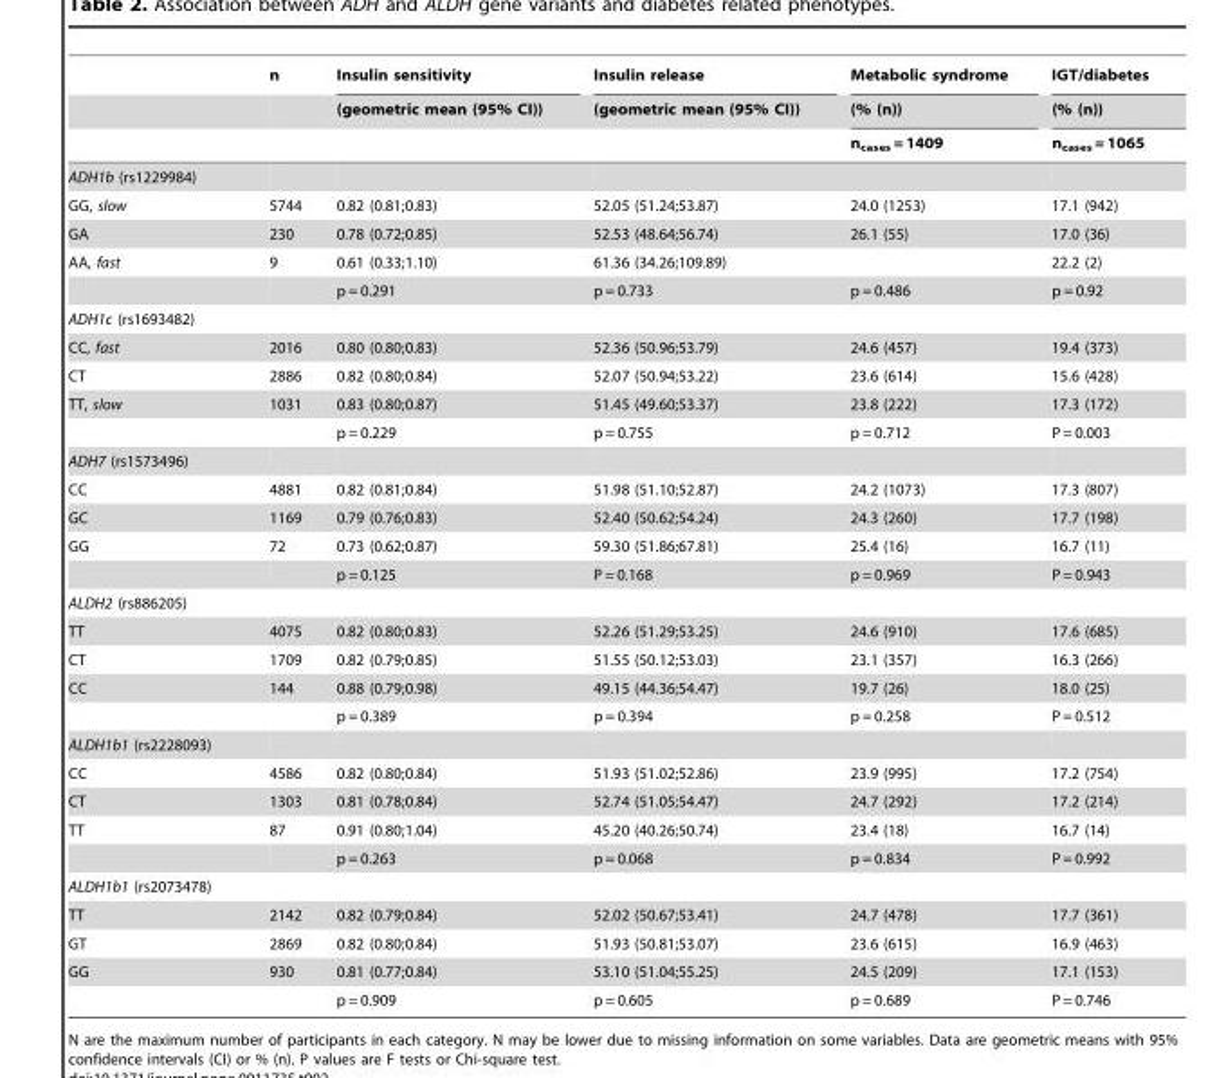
<table><thead><tr><td rowspan="3"></td><td rowspan="3">n</td><td rowspan="3">Insulin sensitivity (geometric mean (95% CI))</td><td rowspan="3">Insulin release (geometric mean (95% CI))</td><td rowspan="3">Metabolic syndrome (% (n)) n<sub>cases</sub> = 1409</td><td rowspan="3">IGT/diabetes (% (n)) n<sub>cases</sub> = 1065</td></tr><tr></tr><tr></tr></thead><tbody><tr><td colspan="6">ADH1b (rs1229984)</td></tr><tr><td>GG, slow</td><td>5744</td><td>0.82 (0.81;0.83)</td><td>52.05 (51.24;53.87)</td><td>24.0 (1253)</td><td>17.1 (942)</td></tr><tr><td>GA</td><td>230</td><td>0.78 (0.72;0.85)</td><td>52.53 (48.64;56.74)</td><td>26.1 (55)</td><td>17.0 (36)</td></tr><tr><td rowspan="2">AA, fast</td><td>9</td><td>0.61 (0.33;1.10)</td><td>61.36 (34.26;109.89)</td><td></td><td>22.2 (2)</td></tr><tr><td></td><td>p = 0.291</td><td>p = 0.733</td><td>p = 0.486</td><td>p = 0.92</td></tr><tr><td colspan="6">ADH1c (rs1693482)</td></tr><tr><td>CC, fast</td><td>2016</td><td>0.80 (0.80;0.83)</td><td>52.36 (50.96;53.79)</td><td>24.6 (457)</td><td>19.4 (373)</td></tr><tr><td>CT</td><td>2886</td><td>0.82 (0.80;0.84)</td><td>52.07 (50.94;53.22)</td><td>23.6 (614)</td><td>15.6 (428)</td></tr><tr><td rowspan="2">TT, slow</td><td>1031</td><td>0.83 (0.80;0.87)</td><td>51.45 (49.60;53.37)</td><td>23.8 (222)</td><td>17.3 (172)</td></tr><tr><td></td><td>p = 0.229</td><td>p = 0.755</td><td>p = 0.712</td><td>P = 0.003</td></tr><tr><td colspan="6">ADH7 (rs1573496)</td></tr><tr><td>CC</td><td>4881</td><td>0.82 (0.81;0.84)</td><td>51.98 (51.10;52.87)</td><td>24.2 (1073)</td><td>17.3 (807)</td></tr><tr><td>GC</td><td>1169</td><td>0.79 (0.76;0.83)</td><td>52.40 (50.62;54.24)</td><td>24.3 (260)</td><td>17.7 (198)</td></tr><tr><td rowspan="2">GG</td><td>72</td><td>0.73 (0.62;0.87)</td><td>59.30 (51.86;67.81)</td><td>25.4 (16)</td><td>16.7 (11)</td></tr><tr><td></td><td>p = 0.125</td><td>P = 0.168</td><td>p = 0.969</td><td>P = 0.943</td></tr><tr><td colspan="6">ALDH2 (rs886205)</td></tr><tr><td>TT</td><td>4075</td><td>0.82 (0.80;0.83)</td><td>52.26 (51.29;53.25)</td><td>24.6 (910)</td><td>17.6 (685)</td></tr><tr><td>CT</td><td>1709</td><td>0.82 (0.79;0.85)</td><td>51.55 (50.12;53.03)</td><td>23.1 (357)</td><td>16.3 (266)</td></tr><tr><td rowspan="2">CC</td><td>144</td><td>0.88 (0.79;0.98)</td><td>49.15 (44.36;54.47)</td><td>19.7 (26)</td><td>18.0 (25)</td></tr><tr><td></td><td>p = 0.389</td><td>p = 0.394</td><td>p = 0.258</td><td>P = 0.512</td></tr><tr><td colspan="6">ALDH1b1 (rs2228093)</td></tr><tr><td>CC</td><td>4586</td><td>0.82 (0.80;0.84)</td><td>51.93 (51.02;52.86)</td><td>23.9 (995)</td><td>17.2 (754)</td></tr><tr><td>CT</td><td>1303</td><td>0.81 (0.78;0.84)</td><td>52.74 (51.05;54.47)</td><td>24.7 (292)</td><td>17.2 (214)</td></tr><tr><td rowspan="2">TT</td><td>87</td><td>0.91 (0.80;1.04)</td><td>45.20 (40.26;50.74)</td><td>23.4 (18)</td><td>16.7 (14)</td></tr><tr><td></td><td>p = 0.263</td><td>p = 0.068</td><td>p = 0.834</td><td>P = 0.992</td></tr><tr><td colspan="6">ALDH1b1 (rs2073478)</td></tr><tr><td>TT</td><td>2142</td><td>0.82 (0.79;0.84)</td><td>52.02 (50.67;53.41)</td><td>24.7 (478)</td><td>17.7 (361)</td></tr><tr><td>GT</td><td>2869</td><td>0.82 (0.80;0.84)</td><td>51.93 (50.81;53.07)</td><td>23.6 (615)</td><td>16.9 (463)</td></tr><tr><td rowspan="2">GG</td><td>930</td><td>0.81 (0.77;0.84)</td><td>53.10 (51.04;55.25)</td><td>24.5 (209)</td><td>17.1 (153)</td></tr><tr><td></td><td>p = 0.909</td><td>p = 0.605</td><td>p = 0.689</td><td>P = 0.746</td></tr></tbody></table>